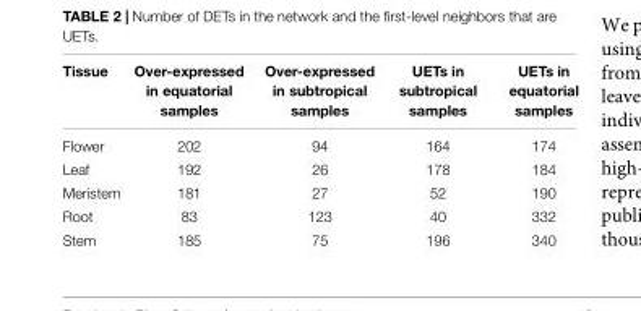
<table><thead><tr><td>Tissue</td><td>Over-expressed in equatorial samples</td><td>Over-expressed in subtropical samples</td><td>UETs in subtropical samples</td><td>UETs in equatorial samples</td></tr></thead><tbody><tr><td>Flower</td><td>202</td><td>94</td><td>164</td><td>174</td></tr><tr><td>Leaf</td><td>192</td><td>26</td><td>178</td><td>184</td></tr><tr><td>Meristem</td><td>181</td><td>27</td><td>52</td><td>190</td></tr><tr><td>Root</td><td>83</td><td>123</td><td>40</td><td>332</td></tr><tr><td>Stem</td><td>185</td><td>75</td><td>196</td><td>340</td></tr></tbody></table>